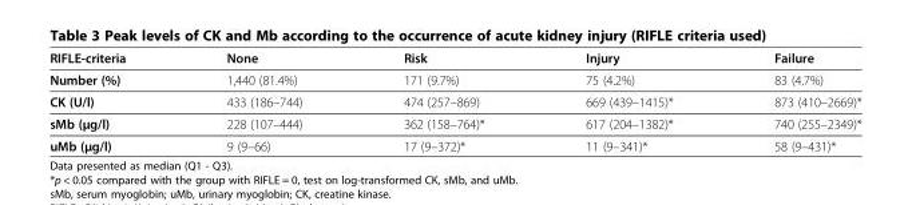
<table><thead><tr><td>RIFLE-criteria</td><td>None</td><td>Risk</td><td>Injury</td><td>Failure</td></tr></thead><tbody><tr><td>Number (%)</td><td>1,440 (81.4%)</td><td>171 (9.7%)</td><td>75 (4.2%)</td><td>83 (4.7%)</td></tr><tr><td>CK (U/l)</td><td>433 (186–744)</td><td>474 (257–869)</td><td>669 (439–1415)*</td><td>873 (410–2669)*</td></tr><tr><td>sMb (μg/l)</td><td>228 (107–444)</td><td>362 (158–764)*</td><td>617 (204–1382)*</td><td>740 (255–2349)*</td></tr><tr><td>uMb (μg/l)</td><td>9 (9–66)</td><td>17 (9–372)*</td><td>11 (9–341)*</td><td>58 (9–431)*</td></tr></tbody></table>